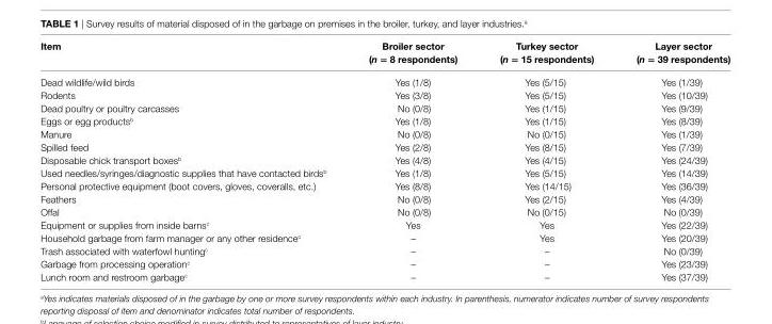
<table><thead><tr><td>item</td><td>broiler sector (n = 8 respondents)</td><td>turkey sector (n = 15 respondents)</td><td>layer sector (n = 39 respondents)</td></tr></thead><tbody><tr><td>Dead wildlife/wild birds</td><td>Yes (1/8)</td><td>Yes (5/15)</td><td>Yes (1/39)</td></tr><tr><td>Rodents</td><td>Yes (3/8)</td><td>Yes (5/15)</td><td>Yes (10/39)</td></tr><tr><td>Dead poultry or poultry carcasses</td><td>No (0/8)</td><td>Yes (1/15)</td><td>Yes (9/39)</td></tr><tr><td>Eggs or egg products<sup>b</sup></td><td>Yes (1/8)</td><td>Yes (1/15)</td><td>Yes (8/39)</td></tr><tr><td>Manure</td><td>No (0/8)</td><td>No (0/15)</td><td>Yes (1/39)</td></tr><tr><td>Spilled feed</td><td>Yes (2/8)</td><td>Yes (8/15)</td><td>Yes (7/39)</td></tr><tr><td>Disposable chick transport boxes<sup>b</sup></td><td>Yes (4/8)</td><td>Yes (4/15)</td><td>Yes (24/39)</td></tr><tr><td>Used needles/syringes/diagnostic supplies that have contacted birds<sup>b</sup></td><td>Yes (1/8)</td><td>Yes (5/15)</td><td>Yes (14/39)</td></tr><tr><td>Personal protective equipment (boot covers, gloves, coveralls, etc.)</td><td>Yes (8/8)</td><td>Yes (14/15)</td><td>Yes (36/39)</td></tr><tr><td>Feathers</td><td>No (0/8)</td><td>Yes (2/15)</td><td>Yes (4/39)</td></tr><tr><td>Offal</td><td>No (0/8)</td><td>No (0/15)</td><td>No (0/39)</td></tr><tr><td>Equipment or supplies from inside barns<sup>c</sup></td><td>Yes</td><td>Yes</td><td>Yes (22/39)</td></tr><tr><td>Household garbage from farm manager or any other residence<sup>c</sup></td><td>–</td><td>Yes</td><td>Yes (20/39)</td></tr><tr><td>Trash associated with waterfowl hunting<sup>c</sup></td><td>–</td><td>–</td><td>No (0/39)</td></tr><tr><td>Garbage from processing operation<sup>c</sup></td><td>–</td><td>–</td><td>Yes (23/39)</td></tr><tr><td>Lunch room and restroom garbage<sup>c</sup></td><td>–</td><td>–</td><td>Yes (37/39)</td></tr></tbody></table>